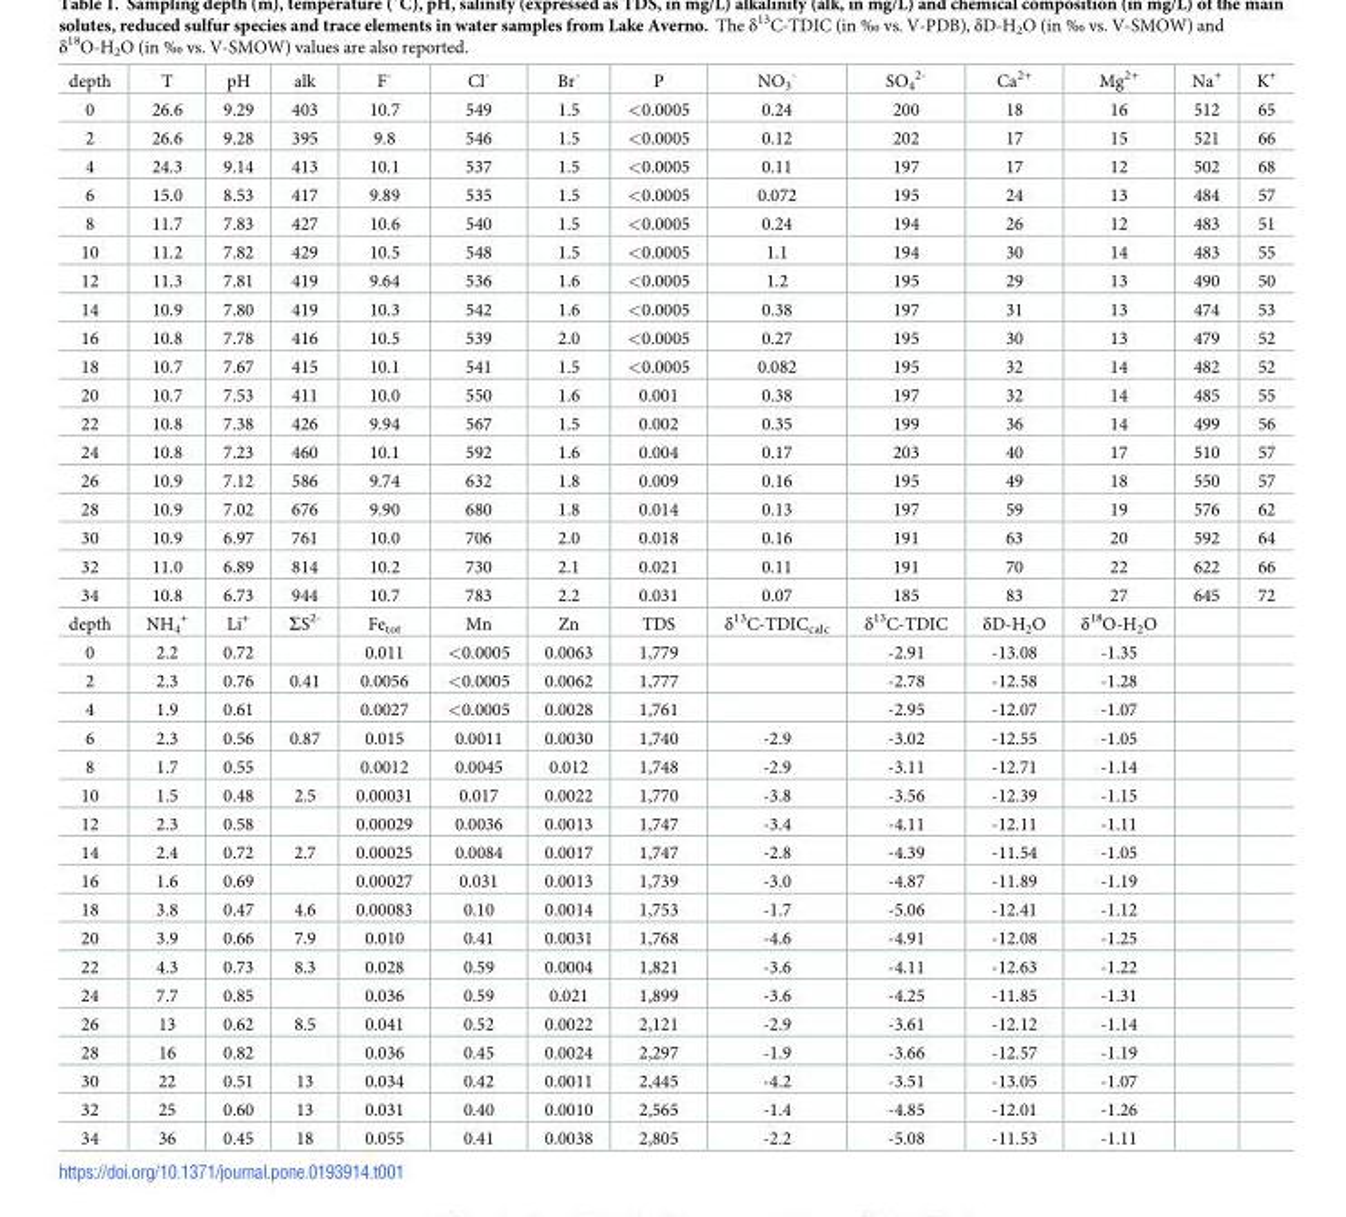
<table><tbody><tr><td>depth</td><td>T</td><td>pH</td><td>alk</td><td>F<sup>-</sup></td><td>Cl<sup>-</sup></td><td>Br<sup>-</sup></td><td>P</td><td>NO<sub>3</sub> <sup>-</sup></td><td>SO<sub>4</sub> <sup>2-</sup></td><td>Ca<sup>2+</sup></td><td>Mg<sup>2+</sup></td><td>Na<sup>+</sup></td><td>K<sup>+</sup></td></tr><tr><td>0</td><td>26.6</td><td>9.29</td><td>403</td><td>10.7</td><td>549</td><td>1.5</td><td>&lt;0.0005</td><td>0.24</td><td>200</td><td>18</td><td>16</td><td>512</td><td>65</td></tr><tr><td>2</td><td>26.6</td><td>9.28</td><td>395</td><td>9.8</td><td>546</td><td>1.5</td><td>&lt;0.0005</td><td>0.12</td><td>202</td><td>17</td><td>15</td><td>521</td><td>66</td></tr><tr><td>4</td><td>24.3</td><td>9.14</td><td>413</td><td>10.1</td><td>537</td><td>1.5</td><td>&lt;0.0005</td><td>0.11</td><td>197</td><td>17</td><td>12</td><td>502</td><td>68</td></tr><tr><td>6</td><td>15.0</td><td>8.53</td><td>417</td><td>9.89</td><td>535</td><td>1.5</td><td>&lt;0.0005</td><td>0.072</td><td>195</td><td>24</td><td>13</td><td>484</td><td>57</td></tr><tr><td>8</td><td>11.7</td><td>7.83</td><td>427</td><td>10.6</td><td>540</td><td>1.5</td><td>&lt;0.0005</td><td>0.24</td><td>194</td><td>26</td><td>12</td><td>483</td><td>51</td></tr><tr><td>10</td><td>11.2</td><td>7.82</td><td>429</td><td>10.5</td><td>548</td><td>1.5</td><td>&lt;0.0005</td><td>1.1</td><td>194</td><td>30</td><td>14</td><td>483</td><td>55</td></tr><tr><td>12</td><td>11.3</td><td>7.81</td><td>419</td><td>9.64</td><td>536</td><td>1.6</td><td>&lt;0.0005</td><td>1.2</td><td>195</td><td>29</td><td>13</td><td>490</td><td>50</td></tr><tr><td>14</td><td>10.9</td><td>7.80</td><td>419</td><td>10.3</td><td>542</td><td>1.6</td><td>&lt;0.0005</td><td>0.38</td><td>197</td><td>31</td><td>13</td><td>474</td><td>53</td></tr><tr><td>16</td><td>10.8</td><td>7.78</td><td>416</td><td>10.5</td><td>539</td><td>2.0</td><td>&lt;0.0005</td><td>0.27</td><td>195</td><td>30</td><td>13</td><td>479</td><td>52</td></tr><tr><td>18</td><td>10.7</td><td>7.67</td><td>415</td><td>10.1</td><td>541</td><td>1.5</td><td>&lt;0.0005</td><td>0.082</td><td>195</td><td>32</td><td>14</td><td>482</td><td>52</td></tr><tr><td>20</td><td>10.7</td><td>7.53</td><td>411</td><td>10.0</td><td>550</td><td>1.6</td><td>0.001</td><td>0.38</td><td>197</td><td>32</td><td>14</td><td>485</td><td>55</td></tr><tr><td>22</td><td>10.8</td><td>7.38</td><td>426</td><td>9.94</td><td>567</td><td>1.5</td><td>0.002</td><td>0.35</td><td>199</td><td>36</td><td>14</td><td>499</td><td>56</td></tr><tr><td>24</td><td>10.8</td><td>7.23</td><td>460</td><td>10.1</td><td>592</td><td>1.6</td><td>0.004</td><td>0.17</td><td>203</td><td>40</td><td>17</td><td>510</td><td>57</td></tr><tr><td>26</td><td>10.9</td><td>7.12</td><td>586</td><td>9.74</td><td>632</td><td>1.8</td><td>0.009</td><td>0.16</td><td>195</td><td>49</td><td>18</td><td>550</td><td>57</td></tr><tr><td>28</td><td>10.9</td><td>7.02</td><td>676</td><td>9.90</td><td>680</td><td>1.8</td><td>0.014</td><td>0.13</td><td>197</td><td>59</td><td>19</td><td>576</td><td>62</td></tr><tr><td>30</td><td>10.9</td><td>6.97</td><td>761</td><td>10.0</td><td>706</td><td>2.0</td><td>0.018</td><td>0.16</td><td>191</td><td>63</td><td>20</td><td>592</td><td>64</td></tr><tr><td>32</td><td>11.0</td><td>6.89</td><td>814</td><td>10.2</td><td>730</td><td>2.1</td><td>0.021</td><td>0.11</td><td>191</td><td>70</td><td>22</td><td>622</td><td>66</td></tr><tr><td>34</td><td>10.8</td><td>6.73</td><td>944</td><td>10.7</td><td>783</td><td>2.2</td><td>0.031</td><td>0.07</td><td>185</td><td>83</td><td>27</td><td>645</td><td>72</td></tr><tr><td>depth</td><td>NH<sub>4</sub> <sup>+</sup></td><td>Li<sup>+</sup></td><td>ΣS<sup>2-</sup></td><td>Fe<sub>tot</sub></td><td>Mn</td><td>Zn</td><td>TDS</td><td>δ<sup>13</sup>C-TDIC<sub>calc</sub></td><td>δ<sup>13</sup>C-TDIC</td><td>δD-H<sub>2</sub>O</td><td>δ<sup>18</sup>O-H<sub>2</sub>O</td><td></td><td></td></tr><tr><td>0</td><td>2.2</td><td>0.72</td><td></td><td>0.011</td><td>&lt;0.0005</td><td>0.0063</td><td>1,779</td><td></td><td>-2.91</td><td>-13.08</td><td>-1.35</td><td></td><td></td></tr><tr><td>2</td><td>2.3</td><td>0.76</td><td>0.41</td><td>0.0056</td><td>&lt;0.0005</td><td>0.0062</td><td>1,777</td><td></td><td>-2.78</td><td>-12.58</td><td>-1.28</td><td></td><td></td></tr><tr><td>4</td><td>1.9</td><td>0.61</td><td></td><td>0.0027</td><td>&lt;0.0005</td><td>0.0028</td><td>1,761</td><td></td><td>-2.95</td><td>-12.07</td><td>-1.07</td><td></td><td></td></tr><tr><td>6</td><td>2.3</td><td>0.56</td><td>0.87</td><td>0.015</td><td>0.0011</td><td>0.0030</td><td>1,740</td><td>-2.9</td><td>-3.02</td><td>-12.55</td><td>-1.05</td><td></td><td></td></tr><tr><td>8</td><td>1.7</td><td>0.55</td><td></td><td>0.0012</td><td>0.0045</td><td>0.012</td><td>1,748</td><td>-2.9</td><td>-3.11</td><td>-12.71</td><td>-1.14</td><td></td><td></td></tr><tr><td>10</td><td>1.5</td><td>0.48</td><td>2.5</td><td>0.00031</td><td>0.017</td><td>0.0022</td><td>1,770</td><td>-3.8</td><td>-3.56</td><td>-12.39</td><td>-1.15</td><td></td><td></td></tr><tr><td>12</td><td>2.3</td><td>0.58</td><td></td><td>0.00029</td><td>0.0036</td><td>0.0013</td><td>1,747</td><td>-3.4</td><td>-4.11</td><td>-12.11</td><td>-1.11</td><td></td><td></td></tr><tr><td>14</td><td>2.4</td><td>0.72</td><td>2.7</td><td>0.00025</td><td>0.0084</td><td>0.0017</td><td>1,747</td><td>-2.8</td><td>-4.39</td><td>-11.54</td><td>-1.05</td><td></td><td></td></tr><tr><td>16</td><td>1.6</td><td>0.69</td><td></td><td>0.00027</td><td>0.031</td><td>0.0013</td><td>1,739</td><td>-3.0</td><td>-4.87</td><td>-11.89</td><td>-1.19</td><td></td><td></td></tr><tr><td>18</td><td>3.8</td><td>0.47</td><td>4.6</td><td>0.00083</td><td>0.10</td><td>0.0014</td><td>1,753</td><td>-1.7</td><td>-5.06</td><td>-12.41</td><td>-1.12</td><td></td><td></td></tr><tr><td>20</td><td>3.9</td><td>0.66</td><td>7.9</td><td>0.010</td><td>0.41</td><td>0.0031</td><td>1,768</td><td>-4.6</td><td>-4.91</td><td>-12.08</td><td>-1.25</td><td></td><td></td></tr><tr><td>22</td><td>4.3</td><td>0.73</td><td>8.3</td><td>0.028</td><td>0.59</td><td>0.0004</td><td>1,821</td><td>-3.6</td><td>-4.11</td><td>-12.63</td><td>-1.22</td><td></td><td></td></tr><tr><td>24</td><td>7.7</td><td>0.85</td><td></td><td>0.036</td><td>0.59</td><td>0.021</td><td>1,899</td><td>-3.6</td><td>-4.25</td><td>-11.85</td><td>-1.31</td><td></td><td></td></tr><tr><td>26</td><td>13</td><td>0.62</td><td>8.5</td><td>0.041</td><td>0.52</td><td>0.0022</td><td>2,121</td><td>-2.9</td><td>-3.61</td><td>-12.12</td><td>-1.14</td><td></td><td></td></tr><tr><td>28</td><td>16</td><td>0.82</td><td></td><td>0.036</td><td>0.45</td><td>0.0024</td><td>2,297</td><td>-1.9</td><td>-3.66</td><td>-12.57</td><td>-1.19</td><td></td><td></td></tr><tr><td>30</td><td>22</td><td>0.51</td><td>13</td><td>0.034</td><td>0.42</td><td>0.0011</td><td>2,445</td><td>-4.2</td><td>-3.51</td><td>-13.05</td><td>-1.07</td><td></td><td></td></tr><tr><td>32</td><td>25</td><td>0.60</td><td>13</td><td>0.031</td><td>0.40</td><td>0.0010</td><td>2,565</td><td>-1.4</td><td>-4.85</td><td>-12.01</td><td>-1.26</td><td></td><td></td></tr><tr><td>34</td><td>36</td><td>0.45</td><td>18</td><td>0.055</td><td>0.41</td><td>0.0038</td><td>2,805</td><td>-2.2</td><td>-5.08</td><td>-11.53</td><td>-1.11</td><td></td><td></td></tr></tbody></table>